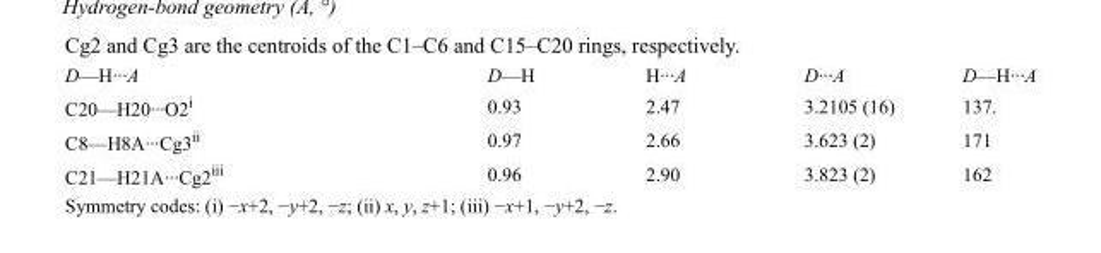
<table><tbody><tr><td>D—H···A</td><td>D—H</td><td>H···A</td><td>D···A</td><td>D—H···A</td></tr><tr><td>C20—H20···O2<sup>i</sup></td><td>0.93</td><td>2.47</td><td>3.2105 (16)</td><td>137.</td></tr><tr><td>C8—H8A···Cg3<sup>ii</sup></td><td>0.97</td><td>2.66</td><td>3.623 (2)</td><td>171</td></tr><tr><td>C21—H21A···Cg2<sup>iii</sup></td><td>0.96</td><td>2.90</td><td>3.823 (2)</td><td>162</td></tr></tbody></table>